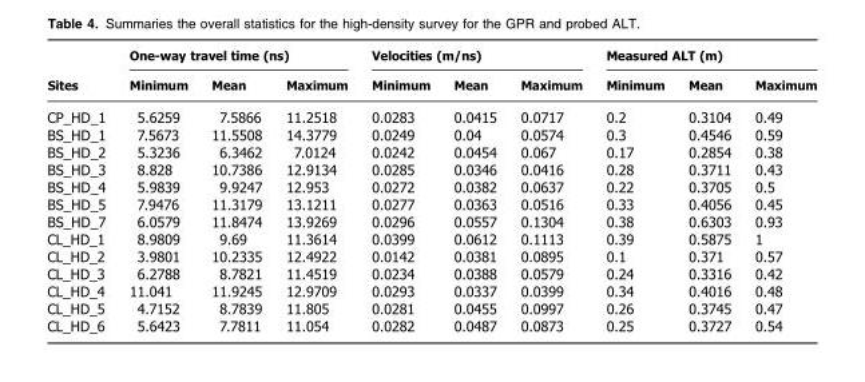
<table><thead><tr><td rowspan="2">Sites</td><td colspan="3">One-way travel time (ns)</td><td colspan="3">Velocities (m/ns)</td><td colspan="3">Measured ALT (m)</td></tr><tr><td>Minimum</td><td>Mean</td><td>Maximum</td><td>Minimum</td><td>Mean</td><td>Maximum</td><td>Minimum</td><td>Mean</td><td>Maximum</td></tr></thead><tbody><tr><td>CP_HD_1</td><td>5.6259</td><td>7.5866</td><td>11.2518</td><td>0.0283</td><td>0.0415</td><td>0.0717</td><td>0.2</td><td>0.3104</td><td>0.49</td></tr><tr><td>BS_HD_1</td><td>7.5673</td><td>11.5508</td><td>14.3779</td><td>0.0249</td><td>0.04</td><td>0.0574</td><td>0.3</td><td>0.4546</td><td>0.59</td></tr><tr><td>BS_HD_2</td><td>5.3236</td><td>6.3462</td><td>7.0124</td><td>0.0242</td><td>0.0454</td><td>0.067</td><td>0.17</td><td>0.2854</td><td>0.38</td></tr><tr><td>BS_HD_3</td><td>8.828</td><td>10.7386</td><td>12.9134</td><td>0.0285</td><td>0.0346</td><td>0.0416</td><td>0.28</td><td>0.3711</td><td>0.43</td></tr><tr><td>BS_HD_4</td><td>5.9839</td><td>9.9247</td><td>12.953</td><td>0.0272</td><td>0.0382</td><td>0.0637</td><td>0.22</td><td>0.3705</td><td>0.5</td></tr><tr><td>BS_HD_5</td><td>7.9476</td><td>11.3179</td><td>13.1211</td><td>0.0277</td><td>0.0363</td><td>0.0516</td><td>0.33</td><td>0.4056</td><td>0.45</td></tr><tr><td>BS_HD_7</td><td>6.0579</td><td>11.8474</td><td>13.9269</td><td>0.0296</td><td>0.0557</td><td>0.1304</td><td>0.38</td><td>0.6303</td><td>0.93</td></tr><tr><td>CL_HD_1</td><td>8.9809</td><td>9.69</td><td>11.3614</td><td>0.0399</td><td>0.0612</td><td>0.1113</td><td>0.39</td><td>0.5875</td><td>1</td></tr><tr><td>CL_HD_2</td><td>3.9801</td><td>10.2335</td><td>12.4922</td><td>0.0142</td><td>0.0381</td><td>0.0895</td><td>0.1</td><td>0.371</td><td>0.57</td></tr><tr><td>CL_HD_3</td><td>6.2788</td><td>8.7821</td><td>11.4519</td><td>0.0234</td><td>0.0388</td><td>0.0579</td><td>0.24</td><td>0.3316</td><td>0.42</td></tr><tr><td>CL_HD_4</td><td>11.041</td><td>11.9245</td><td>12.9709</td><td>0.0293</td><td>0.0337</td><td>0.0399</td><td>0.34</td><td>0.4016</td><td>0.48</td></tr><tr><td>CL_HD_5</td><td>4.7152</td><td>8.7839</td><td>11.805</td><td>0.0281</td><td>0.0455</td><td>0.0997</td><td>0.26</td><td>0.3745</td><td>0.47</td></tr><tr><td>CL_HD_6</td><td>5.6423</td><td>7.7811</td><td>11.054</td><td>0.0282</td><td>0.0487</td><td>0.0873</td><td>0.25</td><td>0.3727</td><td>0.54</td></tr></tbody></table>